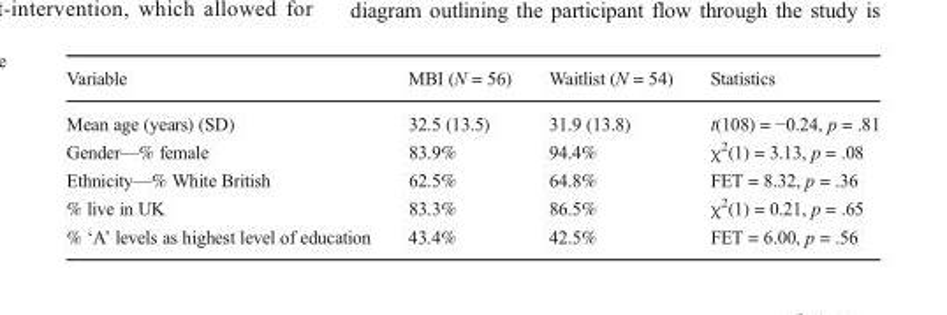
<table><thead><tr><td>Variable</td><td>MBI (N = 56)</td><td>Waitlist (N = 54)</td><td>Statistics</td></tr></thead><tbody><tr><td>Mean age (years) (SD)</td><td>32.5 (13.5)</td><td>31.9 (13.8)</td><td>t(108) = −0.24, p = .81</td></tr><tr><td>Gender—% female</td><td>83.9%</td><td>94.4%</td><td>χ<sup>2</sup>(1) = 3.13, p = .08</td></tr><tr><td>Ethnicity—% White British</td><td>62.5%</td><td>64.8%</td><td>FET = 8.32, p = .36</td></tr><tr><td>% live in UK</td><td>83.3%</td><td>86.5%</td><td>χ<sup>2</sup>(1) = 0.21, p = .65</td></tr><tr><td>% ‘A’ levels as highest level of education</td><td>43.4%</td><td>42.5%</td><td>FET = 6.00, p = .56</td></tr></tbody></table>